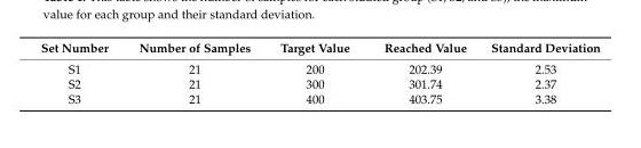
<table><thead><tr><td>Set Number</td><td>Number of Samples</td><td>Target Value</td><td>Reached Value</td><td>Standard Deviation</td></tr></thead><tbody><tr><td>S1</td><td>21</td><td>200</td><td>202.39</td><td>2.53</td></tr><tr><td>S2</td><td>21</td><td>300</td><td>301.74</td><td>2.37</td></tr><tr><td>S3</td><td>21</td><td>400</td><td>403.75</td><td>3.38</td></tr></tbody></table>